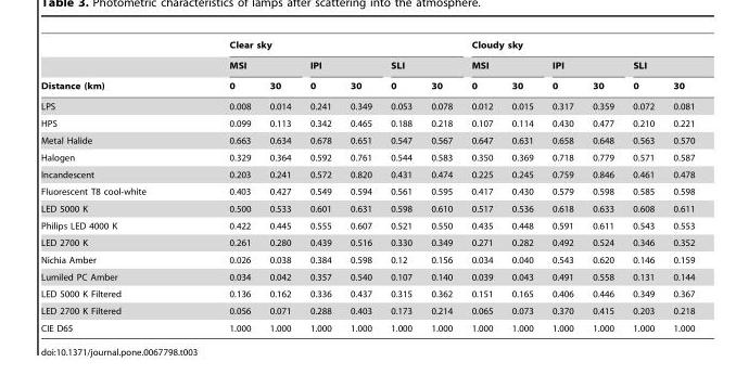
<table><thead><tr><td rowspan="3">Distance (km)</td><td colspan="6">Clear sky</td><td colspan="6">Cloudy sky</td></tr><tr><td colspan="2">MSI</td><td colspan="2">IPI</td><td colspan="2">SLI</td><td colspan="2">MSI</td><td colspan="2">IPI</td><td colspan="2">SLI</td></tr><tr><td>0</td><td>30</td><td>0</td><td>30</td><td>0</td><td>30</td><td>0</td><td>30</td><td>0</td><td>30</td><td>0</td><td>30</td></tr></thead><tbody><tr><td>LPS</td><td>0.008</td><td>0.014</td><td>0.241</td><td>0.349</td><td>0.053</td><td>0.078</td><td>0.012</td><td>0.015</td><td>0.317</td><td>0.359</td><td>0.072</td><td>0.081</td></tr><tr><td>HPS</td><td>0.099</td><td>0.113</td><td>0.342</td><td>0.465</td><td>0.188</td><td>0.218</td><td>0.107</td><td>0.114</td><td>0.430</td><td>0.477</td><td>0.210</td><td>0.221</td></tr><tr><td>Metal Halide</td><td>0.663</td><td>0.634</td><td>0.678</td><td>0.651</td><td>0.547</td><td>0.567</td><td>0.647</td><td>0.631</td><td>0.658</td><td>0.648</td><td>0.563</td><td>0.570</td></tr><tr><td>Halogen</td><td>0.329</td><td>0.364</td><td>0.592</td><td>0.761</td><td>0.544</td><td>0.583</td><td>0.350</td><td>0.369</td><td>0.718</td><td>0.779</td><td>0.571</td><td>0.587</td></tr><tr><td>Incandescent</td><td>0.203</td><td>0.241</td><td>0.572</td><td>0.820</td><td>0.431</td><td>0.474</td><td>0.225</td><td>0.245</td><td>0.759</td><td>0.846</td><td>0.461</td><td>0.478</td></tr><tr><td>Fluorescent T8 cool-white</td><td>0.403</td><td>0.427</td><td>0.549</td><td>0.594</td><td>0.561</td><td>0.595</td><td>0.417</td><td>0.430</td><td>0.579</td><td>0.598</td><td>0.585</td><td>0.598</td></tr><tr><td>LED 5000 K</td><td>0.500</td><td>0.533</td><td>0.601</td><td>0.631</td><td>0.598</td><td>0.610</td><td>0.517</td><td>0.536</td><td>0.618</td><td>0.633</td><td>0.608</td><td>0.611</td></tr><tr><td>Philips LED 4000 K</td><td>0.422</td><td>0.445</td><td>0.555</td><td>0.607</td><td>0.521</td><td>0.550</td><td>0.435</td><td>0.448</td><td>0.591</td><td>0.611</td><td>0.543</td><td>0.553</td></tr><tr><td>LED 2700 K</td><td>0.261</td><td>0.280</td><td>0.439</td><td>0.516</td><td>0.330</td><td>0.349</td><td>0.271</td><td>0.282</td><td>0.492</td><td>0.524</td><td>0.346</td><td>0.352</td></tr><tr><td>Nichia Amber</td><td>0.026</td><td>0.038</td><td>0.384</td><td>0.598</td><td>0.12</td><td>0.156</td><td>0.034</td><td>0.040</td><td>0.543</td><td>0.620</td><td>0.146</td><td>0.159</td></tr><tr><td>Lumiled PC Amber</td><td>0.034</td><td>0.042</td><td>0.357</td><td>0.540</td><td>0.107</td><td>0.140</td><td>0.039</td><td>0.043</td><td>0.491</td><td>0.558</td><td>0.131</td><td>0.144</td></tr><tr><td>LED 5000 K Filtered</td><td>0.136</td><td>0.162</td><td>0.336</td><td>0.437</td><td>0.315</td><td>0.362</td><td>0.151</td><td>0.165</td><td>0.406</td><td>0.446</td><td>0.349</td><td>0.367</td></tr><tr><td>LED 2700 K Filtered</td><td>0.056</td><td>0.071</td><td>0.288</td><td>0.403</td><td>0.173</td><td>0.214</td><td>0.065</td><td>0.073</td><td>0.370</td><td>0.415</td><td>0.203</td><td>0.218</td></tr><tr><td>CIE D65</td><td>1.000</td><td>1.000</td><td>1.000</td><td>1.000</td><td>1.000</td><td>1.000</td><td>1.000</td><td>1.000</td><td>1.000</td><td>1.000</td><td>1.000</td><td>1.000</td></tr></tbody></table>